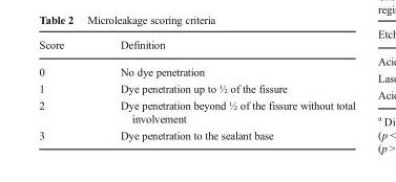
<table><thead><tr><td>Score</td><td>Definition</td></tr></thead><tbody><tr><td>0</td><td>No dye penetration</td></tr><tr><td>1</td><td>Dye penetration up to ½ of the fissure</td></tr><tr><td>2</td><td>Dye penetration beyond ½ of the fissure without total involvement</td></tr><tr><td>3</td><td>Dye penetration to the sealant base</td></tr></tbody></table>